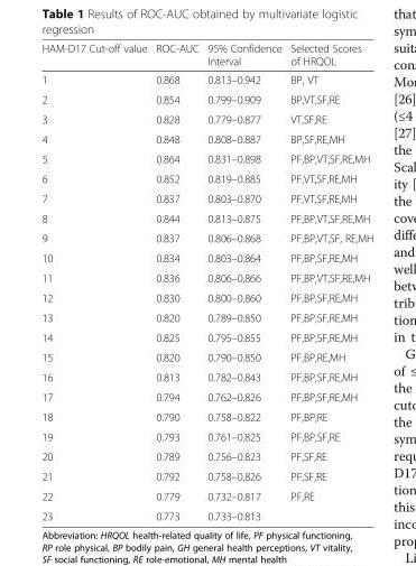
<table><thead><tr><td>HAM-D17 Cut-off value</td><td>ROC-AUC</td><td>95% Confidence Interval</td><td>Selected Scores of HRQOL</td></tr></thead><tbody><tr><td>1</td><td>0.868</td><td>0.813–0.942</td><td>BP, VT</td></tr><tr><td>2</td><td>0.854</td><td>0.799–0.909</td><td>BP,VT,SF,RE</td></tr><tr><td>3</td><td>0.828</td><td>0.779–0.877</td><td>VT,SF,RE</td></tr><tr><td>4</td><td>0.848</td><td>0.808–0.887</td><td>BP,SF,RE,MH</td></tr><tr><td>5</td><td>0.864</td><td>0.831–0.898</td><td>PF,BP,VT,SF,RE,MH</td></tr><tr><td>6</td><td>0.852</td><td>0.819–0.885</td><td>PF,VT,SF,RE,MH</td></tr><tr><td>7</td><td>0.837</td><td>0.803–0.870</td><td>PF,VT,SF,RE,MH</td></tr><tr><td>8</td><td>0.844</td><td>0.813–0.875</td><td>PF,BP,VT,SF,RE,MH</td></tr><tr><td>9</td><td>0.837</td><td>0.806–0.868</td><td>PF,BP,VT,SF, RE,MH</td></tr><tr><td>10</td><td>0.834</td><td>0.803–0.864</td><td>PF,BP,SF,RE,MH</td></tr><tr><td>11</td><td>0.836</td><td>0.806–0.866</td><td>PF,BP,VT,SF,RE,MH</td></tr><tr><td>12</td><td>0.830</td><td>0.800–0.860</td><td>PF,BP,SF,RE,MH</td></tr><tr><td>13</td><td>0.820</td><td>0.789–0.850</td><td>PF,BP,SF,RE,MH</td></tr><tr><td>14</td><td>0.825</td><td>0.795–0.855</td><td>PF,BP,SF,RE,MH</td></tr><tr><td>15</td><td>0.820</td><td>0.790–0.850</td><td>PF,BP,RE,MH</td></tr><tr><td>16</td><td>0.813</td><td>0.782–0.843</td><td>PF,BP,SF,RE,MH</td></tr><tr><td>17</td><td>0.794</td><td>0.762–0.826</td><td>PF,BP,SF,RE,MH</td></tr><tr><td>18</td><td>0.790</td><td>0.758–0.822</td><td>PF,BP,RE</td></tr><tr><td>19</td><td>0.793</td><td>0.761–0.825</td><td>PF,BP,SF,RE</td></tr><tr><td>20</td><td>0.789</td><td>0.756–0.823</td><td>PF,SF,RE</td></tr><tr><td>21</td><td>0.792</td><td>0.758–0.826</td><td>PF,SF,RE</td></tr><tr><td>22</td><td>0.779</td><td>0.732–0.817</td><td>PF,RE</td></tr><tr><td>23</td><td>0.773</td><td>0.733–0.813</td><td></td></tr></tbody></table>